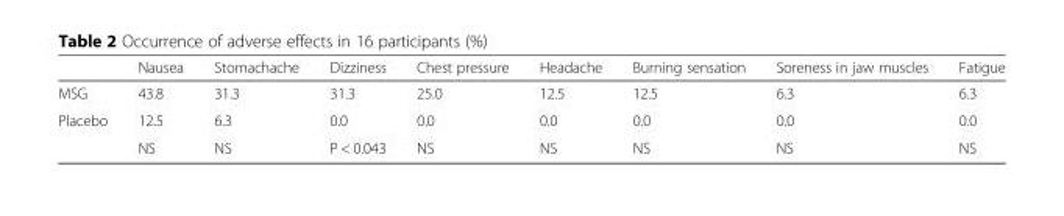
<table><thead><tr><td></td><td>Nausea</td><td>Stomachache</td><td>Dizziness</td><td>Chest pressure</td><td>Headache</td><td>Burning sensation</td><td>Soreness in jaw muscles</td><td>Fatigue</td></tr></thead><tbody><tr><td>MSG</td><td>43.8</td><td>31.3</td><td>31.3</td><td>25.0</td><td>12.5</td><td>12.5</td><td>6.3</td><td>6.3</td></tr><tr><td rowspan="2">Placebo</td><td>12.5</td><td>6.3</td><td>0.0</td><td>0.0</td><td>0.0</td><td>0.0</td><td>0.0</td><td>0.0</td></tr><tr><td>NS</td><td>NS</td><td>P &lt; 0.043</td><td>NS</td><td>NS</td><td>NS</td><td>NS</td><td>NS</td></tr></tbody></table>